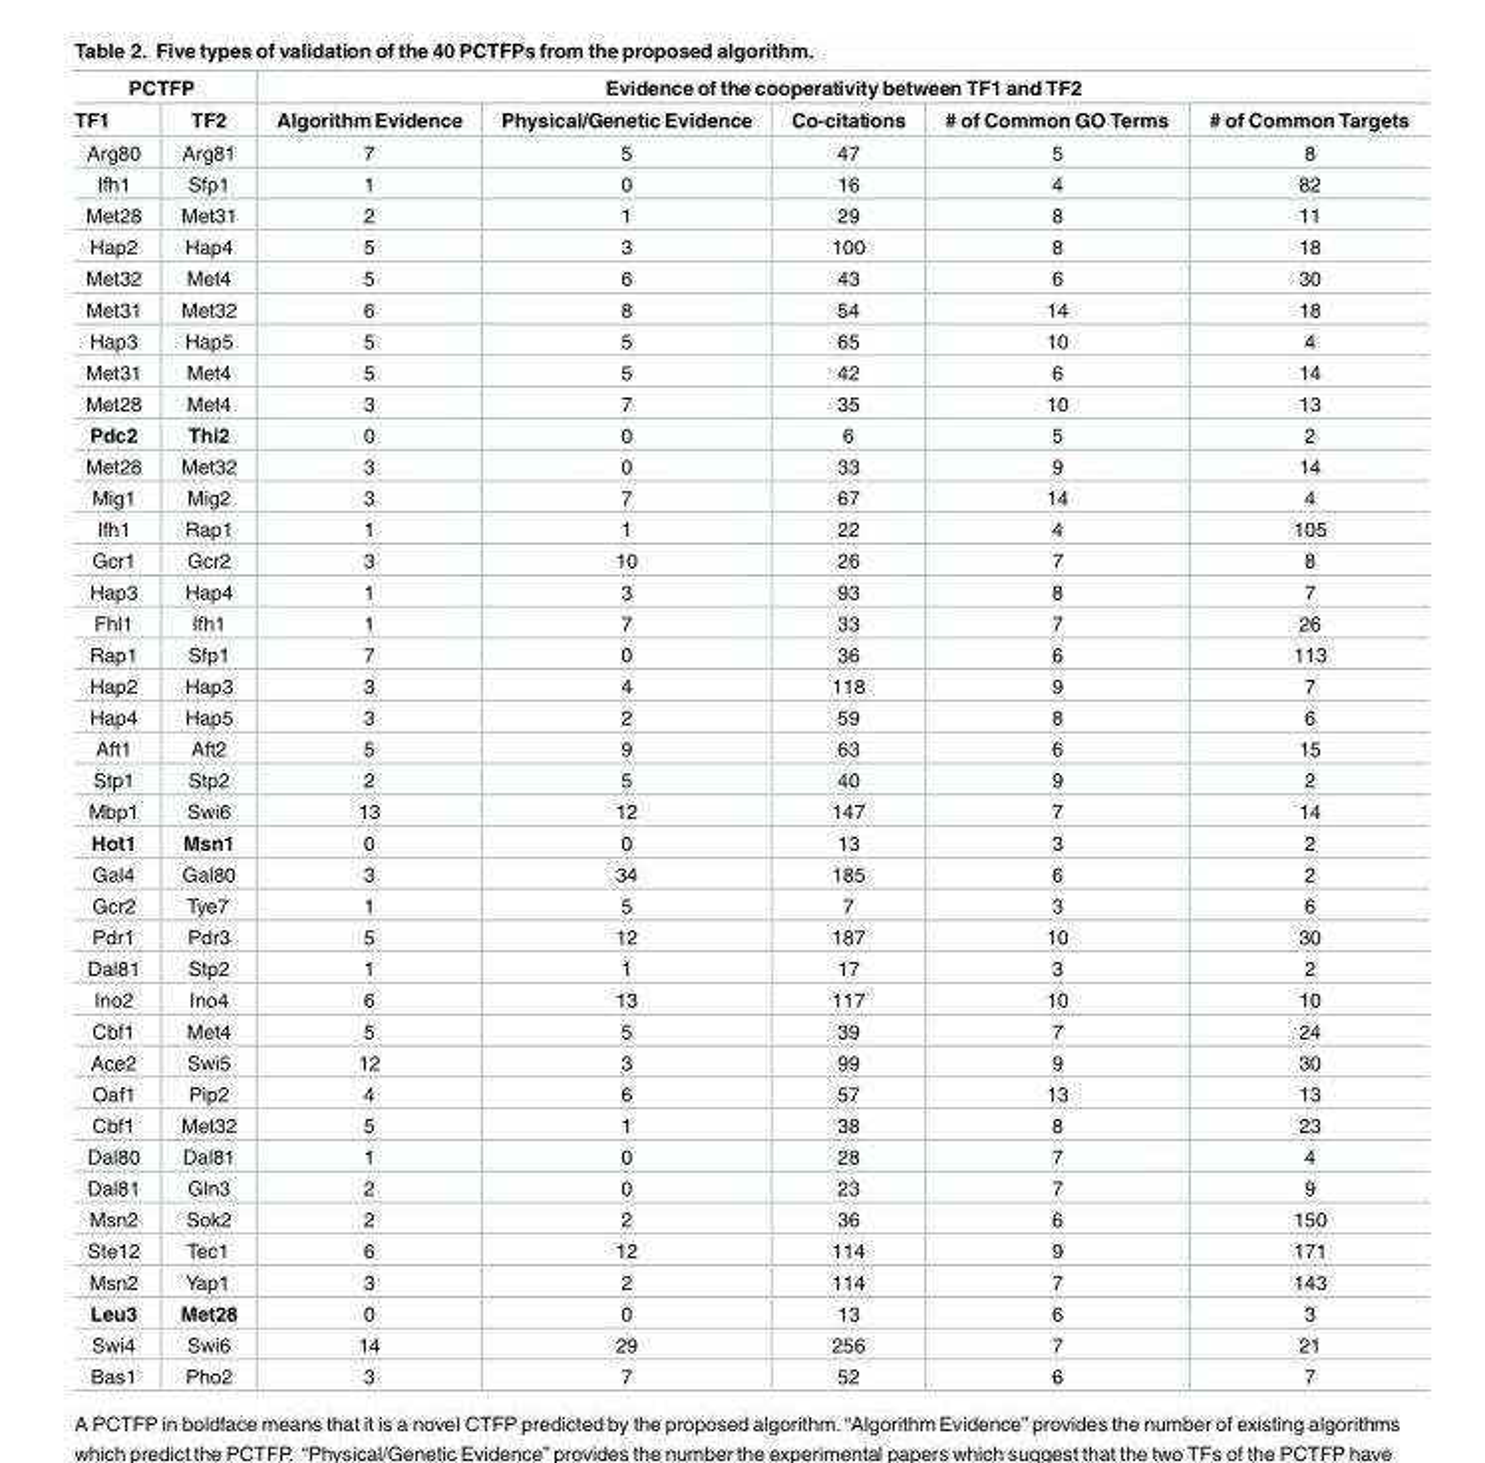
<table><thead><tr><td colspan="2">PCTFP</td><td colspan="5">Evidence of the cooperativity between TF1 and TF2</td></tr><tr><td>TF1</td><td>TF2</td><td>Algorithm Evidence</td><td>Physical/Genetic Evidence</td><td>Co-citations</td><td># of Common GO Terms</td><td># of Common Targets</td></tr></thead><tbody><tr><td>Arg80</td><td>Arg81</td><td>7</td><td>5</td><td>47</td><td>5</td><td>8</td></tr><tr><td>Ifh1</td><td>Sfp1</td><td>1</td><td>0</td><td>16</td><td>4</td><td>82</td></tr><tr><td>Met28</td><td>Met31</td><td>2</td><td>1</td><td>29</td><td>8</td><td>11</td></tr><tr><td>Hap2</td><td>Hap4</td><td>5</td><td>3</td><td>100</td><td>8</td><td>18</td></tr><tr><td>Met32</td><td>Met4</td><td>5</td><td>6</td><td>43</td><td>6</td><td>30</td></tr><tr><td>Met31</td><td>Met32</td><td>6</td><td>8</td><td>54</td><td>14</td><td>18</td></tr><tr><td>Hap3</td><td>Hap5</td><td>5</td><td>5</td><td>65</td><td>10</td><td>4</td></tr><tr><td>Met31</td><td>Met4</td><td>5</td><td>5</td><td>42</td><td>6</td><td>14</td></tr><tr><td>Met28</td><td>Met4</td><td>3</td><td>7</td><td>35</td><td>10</td><td>13</td></tr><tr><td>Pdc2</td><td>Thi2</td><td>0</td><td>0</td><td>6</td><td>5</td><td>2</td></tr><tr><td>Met28</td><td>Met32</td><td>3</td><td>0</td><td>33</td><td>9</td><td>14</td></tr><tr><td>Mig1</td><td>Mig2</td><td>3</td><td>7</td><td>67</td><td>14</td><td>4</td></tr><tr><td>Ifh1</td><td>Rap1</td><td>1</td><td>1</td><td>22</td><td>4</td><td>105</td></tr><tr><td>Gcr1</td><td>Gcr2</td><td>3</td><td>10</td><td>26</td><td>7</td><td>8</td></tr><tr><td>Hap3</td><td>Hap4</td><td>1</td><td>3</td><td>93</td><td>8</td><td>7</td></tr><tr><td>Fhl1</td><td>Ifh1</td><td>1</td><td>7</td><td>33</td><td>7</td><td>26</td></tr><tr><td>Rap1</td><td>Sfp1</td><td>7</td><td>0</td><td>36</td><td>6</td><td>113</td></tr><tr><td>Hap2</td><td>Hap3</td><td>3</td><td>4</td><td>118</td><td>9</td><td>7</td></tr><tr><td>Hap4</td><td>Hap5</td><td>3</td><td>2</td><td>59</td><td>8</td><td>6</td></tr><tr><td>Aft1</td><td>Aft2</td><td>5</td><td>9</td><td>63</td><td>6</td><td>15</td></tr><tr><td>Stp1</td><td>Stp2</td><td>2</td><td>5</td><td>40</td><td>9</td><td>2</td></tr><tr><td>Mbp1</td><td>Swi6</td><td>13</td><td>12</td><td>147</td><td>7</td><td>14</td></tr><tr><td>Hot1</td><td>Msn1</td><td>0</td><td>0</td><td>13</td><td>3</td><td>2</td></tr><tr><td>Gal4</td><td>Gal80</td><td>3</td><td>34</td><td>185</td><td>6</td><td>2</td></tr><tr><td>Gcr2</td><td>Tye7</td><td>1</td><td>5</td><td>7</td><td>3</td><td>6</td></tr><tr><td>Pdr1</td><td>Pdr3</td><td>5</td><td>12</td><td>187</td><td>10</td><td>30</td></tr><tr><td>Dal81</td><td>Stp2</td><td>1</td><td>1</td><td>17</td><td>3</td><td>2</td></tr><tr><td>Ino2</td><td>Ino4</td><td>6</td><td>13</td><td>117</td><td>10</td><td>10</td></tr><tr><td>Cbf1</td><td>Met4</td><td>5</td><td>5</td><td>39</td><td>7</td><td>24</td></tr><tr><td>Ace2</td><td>Swi5</td><td>12</td><td>3</td><td>99</td><td>9</td><td>30</td></tr><tr><td>Oaf1</td><td>Pip2</td><td>4</td><td>6</td><td>57</td><td>13</td><td>13</td></tr><tr><td>Cbf1</td><td>Met32</td><td>5</td><td>1</td><td>38</td><td>8</td><td>23</td></tr><tr><td>Dal80</td><td>Dal81</td><td>1</td><td>0</td><td>28</td><td>7</td><td>4</td></tr><tr><td>Dal81</td><td>Gln3</td><td>2</td><td>0</td><td>23</td><td>7</td><td>9</td></tr><tr><td>Msn2</td><td>Sok2</td><td>2</td><td>2</td><td>36</td><td>6</td><td>150</td></tr><tr><td>Ste12</td><td>Tec1</td><td>6</td><td>12</td><td>114</td><td>9</td><td>171</td></tr><tr><td>Msn2</td><td>Yap1</td><td>3</td><td>2</td><td>114</td><td>7</td><td>143</td></tr><tr><td>Leu3</td><td>Met28</td><td>0</td><td>0</td><td>13</td><td>6</td><td>3</td></tr><tr><td>Swi4</td><td>Swi6</td><td>14</td><td>29</td><td>256</td><td>7</td><td>21</td></tr><tr><td>Bas1</td><td>Pho2</td><td>3</td><td>7</td><td>52</td><td>6</td><td>7</td></tr></tbody></table>